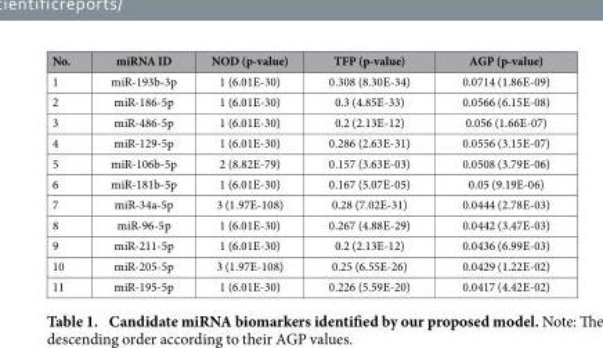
<table><thead><tr><td>No.</td><td>miRNA ID</td><td>NOD (p-value)</td><td>TFP (p-value)</td><td>AGP (p-value)</td></tr></thead><tbody><tr><td>1</td><td>miR-193b-3p</td><td>1 (6.01E-30)</td><td>0.308 (8.30E-34)</td><td>0.0714 (1.86E-09)</td></tr><tr><td>2</td><td>miR-186-5p</td><td>1 (6.01E-30)</td><td>0.3 (4.85E-33)</td><td>0.0566 (6.15E-08)</td></tr><tr><td>3</td><td>miR-486-5p</td><td>1 (6.01E-30)</td><td>0.2 (2.13E-12)</td><td>0.056 (1.66E-07)</td></tr><tr><td>4</td><td>miR-129-5p</td><td>1 (6.01E-30)</td><td>0.286 (2.63E-31)</td><td>0.0556 (3.15E-07)</td></tr><tr><td>5</td><td>miR-106b-5p</td><td>2 (8.82E-79)</td><td>0.157 (3.63E-03)</td><td>0.0508 (3.79E-06)</td></tr><tr><td>6</td><td>miR-181b-5p</td><td>1 (6.01E-30)</td><td>0.167 (5.07E-05)</td><td>0.05 (9.19E-06)</td></tr><tr><td>7</td><td>miR-34a-5p</td><td>3 (1.97E-108)</td><td>0.28 (7.02E-31)</td><td>0.0444 (2.78E-03)</td></tr><tr><td>8</td><td>miR-96-5p</td><td>1 (6.01E-30)</td><td>0.267 (4.88E-29)</td><td>0.0442 (3.47E-03)</td></tr><tr><td>9</td><td>miR-211-5p</td><td>1 (6.01E-30)</td><td>0.2 (2.13E-12)</td><td>0.0436 (6.99E-03)</td></tr><tr><td>10</td><td>miR-205-5p</td><td>3 (1.97E-108)</td><td>0.25 (6.55E-26)</td><td>0.0429 (1.22E-02)</td></tr><tr><td>11</td><td>miR-195-5p</td><td>1 (6.01E-30)</td><td>0.226 (5.59E-20)</td><td>0.0417 (4.42E-02)</td></tr></tbody></table>